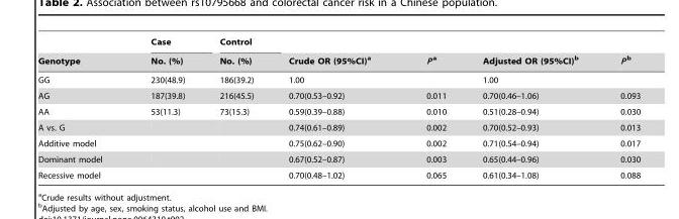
<table><thead><tr><td rowspan="2">Genotype</td><td rowspan="2">Case No. (%)</td><td rowspan="2">Control No. (%)</td><td rowspan="2">Crude OR (95%CI)<sup>a</sup></td><td rowspan="2">P a</td><td rowspan="2">Adjusted OR (95%CI)<sup>b</sup></td><td rowspan="2">P b</td></tr><tr></tr></thead><tbody><tr><td>GG</td><td>230(48.9)</td><td>186(39.2)</td><td>1.00</td><td></td><td>1.00</td><td></td></tr><tr><td>AG</td><td>187(39.8)</td><td>216(45.5)</td><td>0.70(0.53–0.92)</td><td>0.011</td><td>0.70(0.46–1.06)</td><td>0.093</td></tr><tr><td>AA</td><td>53(11.3)</td><td>73(15.3)</td><td>0.59(0.39–0.88)</td><td>0.010</td><td>0.51(0.28–0.94)</td><td>0.030</td></tr><tr><td>A vs. G</td><td></td><td></td><td>0.74(0.61–0.89)</td><td>0.002</td><td>0.70(0.52–0.93)</td><td>0.013</td></tr><tr><td>Additive model</td><td></td><td></td><td>0.75(0.62–0.90)</td><td>0.002</td><td>0.71(0.54–0.94)</td><td>0.017</td></tr><tr><td>Dominant model</td><td></td><td></td><td>0.67(0.52–0.87)</td><td>0.003</td><td>0.65(0.44–0.96)</td><td>0.030</td></tr><tr><td>Recessive model</td><td></td><td></td><td>0.70(0.48–1.02)</td><td>0.065</td><td>0.61(0.34–1.08)</td><td>0.088</td></tr></tbody></table>